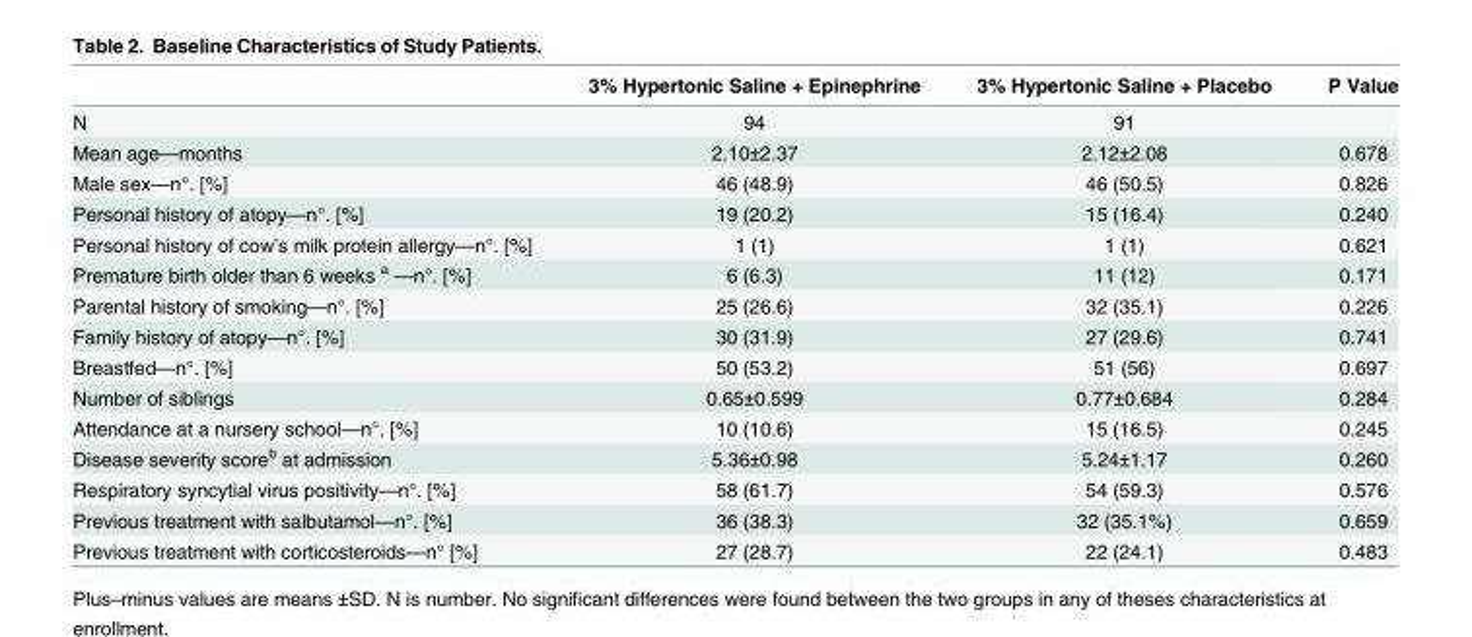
<table><thead><tr><td></td><td>3% Hypertonic Saline + Epinephrine</td><td>3% Hypertonic Saline + Placebo</td><td>P Value</td></tr></thead><tbody><tr><td>N</td><td>94</td><td>91</td><td></td></tr><tr><td>Mean age—months</td><td>2.10±2.37</td><td>2.12±2.08</td><td>0.678</td></tr><tr><td>Male sex—n°. [%]</td><td>46 (48.9)</td><td>46 (50.5)</td><td>0.826</td></tr><tr><td>Personal history of atopy—n°. [%]</td><td>19 (20.2)</td><td>15 (16.4)</td><td>0.240</td></tr><tr><td>Personal history of cow’s milk protein allergy—n°. [%]</td><td>1 (1)</td><td>1 (1)</td><td>0.621</td></tr><tr><td>Premature birth older than 6 weeks <sup>a</sup> —n°. [%]</td><td>6 (6.3)</td><td>11 (12)</td><td>0.171</td></tr><tr><td>Parental history of smoking—n°. [%]</td><td>25 (26.6)</td><td>32 (35.1)</td><td>0.226</td></tr><tr><td>Family history of atopy—n°. [%]</td><td>30 (31.9)</td><td>27 (29.6)</td><td>0.741</td></tr><tr><td>Breastfed—n°. [%]</td><td>50 (53.2)</td><td>51 (56)</td><td>0.697</td></tr><tr><td>Number of siblings</td><td>0.65±0.599</td><td>0.77±0.684</td><td>0.284</td></tr><tr><td>Attendance at a nursery school—n°. [%]</td><td>10 (10.6)</td><td>15 (16.5)</td><td>0.245</td></tr><tr><td>Disease severity score<sup>b</sup> at admission</td><td>5.36±0.98</td><td>5.24±1.17</td><td>0.260</td></tr><tr><td>Respiratory syncytial virus positivity—n°. [%]</td><td>58 (61.7)</td><td>54 (59.3)</td><td>0.576</td></tr><tr><td>Previous treatment with salbutamol—n°. [%]</td><td>36 (38.3)</td><td>32 (35.1%)</td><td>0.659</td></tr><tr><td>Previous treatment with corticosteroids—n° [%]</td><td>27 (28.7)</td><td>22 (24.1)</td><td>0.483</td></tr></tbody></table>